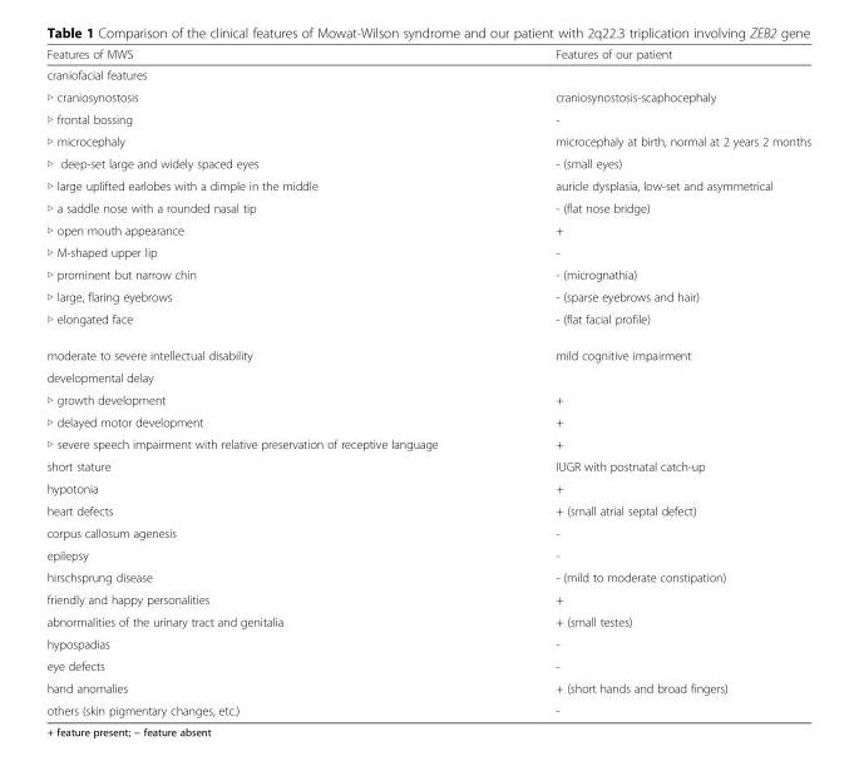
<table><thead><tr><td>Features of MWS</td><td>Features of our patient</td></tr></thead><tbody><tr><td colspan="2">craniofacial features</td></tr><tr><td>▷ craniosynostosis</td><td>craniosynostosis-scaphocephaly</td></tr><tr><td>▷ frontal bossing</td><td>-</td></tr><tr><td>▷ microcephaly</td><td>microcephaly at birth, normal at 2 years 2 months</td></tr><tr><td>▷ deep-set large and widely spaced eyes</td><td>- (small eyes)</td></tr><tr><td>▷ large uplifted earlobes with a dimple in the middle</td><td>auricle dysplasia, low-set and asymmetrical</td></tr><tr><td>▷ a saddle nose with a rounded nasal tip</td><td>- (flat nose bridge)</td></tr><tr><td>▷ open mouth appearance</td><td>+</td></tr><tr><td>▷ M-shaped upper lip</td><td>-</td></tr><tr><td>▷ prominent but narrow chin</td><td>- (micrognathia)</td></tr><tr><td>▷ large, flaring eyebrows</td><td>- (sparse eyebrows and hair)</td></tr><tr><td>▷ elongated face</td><td>- (flat facial profile)</td></tr><tr><td>moderate to severe intellectual disability</td><td>mild cognitive impairment</td></tr><tr><td colspan="2">developmental delay</td></tr><tr><td>▷ growth development</td><td>+</td></tr><tr><td>▷ delayed motor development</td><td>+</td></tr><tr><td>▷ severe speech impairment with relative preservation of receptive language</td><td>+</td></tr><tr><td>short stature</td><td>IUGR with postnatal catch-up</td></tr><tr><td>hypotonia</td><td>+</td></tr><tr><td>heart defects</td><td>+ (small atrial septal defect)</td></tr><tr><td>corpus callosum agenesis</td><td>-</td></tr><tr><td>epilepsy</td><td>-</td></tr><tr><td>hirschsprung disease</td><td>- (mild to moderate constipation)</td></tr><tr><td>friendly and happy personalities</td><td>+</td></tr><tr><td>abnormalities of the urinary tract and genitalia</td><td>+ (small testes)</td></tr><tr><td>hypospadias</td><td>-</td></tr><tr><td>eye defects</td><td>-</td></tr><tr><td>hand anomalies</td><td>+ (short hands and broad fingers)</td></tr><tr><td>others (skin pigmentary changes, etc.)</td><td>-</td></tr></tbody></table>